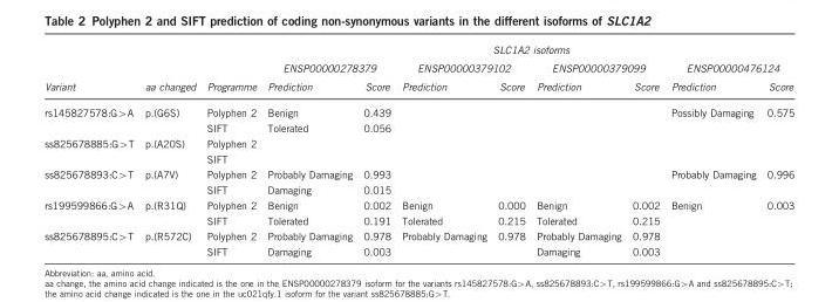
<table><thead><tr><td rowspan="3">Variant</td><td rowspan="3">aa changed</td><td rowspan="3">Programme</td><td colspan="8">SLC1A2 isoforms</td></tr><tr><td colspan="2">ENSP00000278379</td><td colspan="2">ENSP00000379102</td><td colspan="2">ENSP00000379099</td><td colspan="2">ENSP00000476124</td></tr><tr><td>Prediction</td><td>Score</td><td>Prediction</td><td>Score</td><td>Prediction</td><td>Score</td><td>Prediction</td><td>Score</td></tr></thead><tbody><tr><td rowspan="2">rs145827578:G&gt;A</td><td>p.(G6S)</td><td>Polyphen 2</td><td>Benign</td><td>0.439</td><td></td><td></td><td></td><td></td><td>Possibly Damaging</td><td>0.575</td></tr><tr><td></td><td>SIFT</td><td>Tolerated</td><td>0.056</td><td></td><td></td><td></td><td></td><td></td><td></td></tr><tr><td rowspan="2">ss825678885:G&gt;T</td><td>p.(A20S)</td><td>Polyphen 2</td><td></td><td></td><td></td><td></td><td></td><td></td><td></td><td></td></tr><tr><td></td><td>SIFT</td><td></td><td></td><td></td><td></td><td></td><td></td><td></td><td></td></tr><tr><td rowspan="2">ss825678893:C&gt;T</td><td>p.(A7V)</td><td>Polyphen 2</td><td>Probably Damaging</td><td>0.993</td><td></td><td></td><td></td><td></td><td>Probably Damaging</td><td>0.996</td></tr><tr><td></td><td>SIFT</td><td>Damaging</td><td>0.015</td><td></td><td></td><td></td><td></td><td></td><td></td></tr><tr><td rowspan="2">rs199599866:G&gt;A</td><td>p.(R31Q)</td><td>Polyphen 2</td><td>Benign</td><td>0.002</td><td>Benign</td><td>0.000</td><td>Benign</td><td>0.002</td><td>Benign</td><td>0.003</td></tr><tr><td></td><td>SIFT</td><td>Tolerated</td><td>0.191</td><td>Tolerated</td><td>0.215</td><td>Tolerated</td><td>0.215</td><td></td><td></td></tr><tr><td rowspan="2">ss825678895:C&gt;T</td><td>p.(R572C)</td><td>Polyphen 2</td><td>Probably Damaging</td><td>0.978</td><td>Probably Damaging</td><td>0.978</td><td>Probably Damaging</td><td>0.978</td><td></td><td></td></tr><tr><td></td><td>SIFT</td><td>Damaging</td><td>0.003</td><td></td><td></td><td>Damaging</td><td>0.003</td><td></td><td></td></tr></tbody></table>